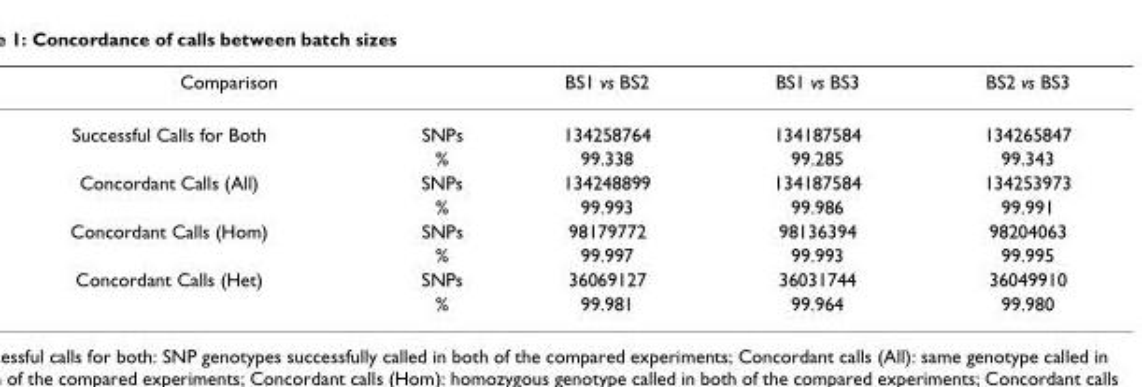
<table><thead><tr><td colspan="2">Comparison</td><td rowspan="2">BS1 vs BS2 134258764</td><td rowspan="2">BS1 vs BS3 134187584</td><td rowspan="2">BS2 vs BS3 134265847</td></tr><tr><td>Successful Calls for Both</td><td>SNPs</td></tr></thead><tbody><tr><td></td><td>%</td><td>99.338</td><td>99.285</td><td>99.343</td></tr><tr><td rowspan="2">Concordant Calls (All)</td><td>SNPs</td><td>134248899</td><td>134187584</td><td>134253973</td></tr><tr><td>%</td><td>99.993</td><td>99.986</td><td>99.991</td></tr><tr><td rowspan="2">Concordant Calls (Hom)</td><td>SNPs</td><td>98179772</td><td>98136394</td><td>98204063</td></tr><tr><td>%</td><td>99.997</td><td>99.993</td><td>99.995</td></tr><tr><td rowspan="2">Concordant Calls (Het)</td><td>SNPs</td><td>36069127</td><td>36031744</td><td>36049910</td></tr><tr><td>%</td><td>99.981</td><td>99.964</td><td>99.980</td></tr></tbody></table>